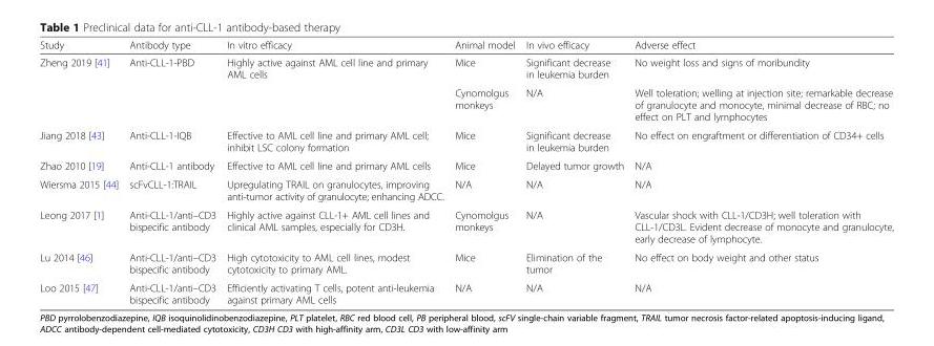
<table><thead><tr><td>Study</td><td>Antibody type</td><td>In vitro efficacy</td><td>Animal model</td><td>In vivo efficacy</td><td>Adverse effect</td></tr></thead><tbody><tr><td rowspan="2">Zheng 2019 [41]</td><td rowspan="2">Anti-CLL-1-PBD</td><td rowspan="2">Highly active against AML cell line and primary AML cells</td><td>Mice</td><td>Significant decrease in leukemia burden</td><td>No weight loss and signs of moribundity</td></tr><tr><td>Cynomolgus monkeys</td><td>N/A</td><td>Well toleration; welling at injection site; remarkable decrease of granulocyte and monocyte, minimal decrease of RBC; no effect on PLT and lymphocytes</td></tr><tr><td>Jiang 2018 [43]</td><td>Anti-CLL-1-IQB</td><td>Effective to AML cell line and primary AML cell; inhibit LSC colony formation</td><td>Mice</td><td>Significant decrease in leukemia burden</td><td>No effect on engraftment or differentiation of CD34+ cells</td></tr><tr><td>Zhao 2010 [19]</td><td>Anti-CLL-1 antibody</td><td>Effective to AML cell line and primary AML cells</td><td>Mice</td><td>Delayed tumor growth</td><td>N/A</td></tr><tr><td>Wiersma 2015 [44]</td><td>scFvCLL-1:TRAIL</td><td>Upregulating TRAIL on granulocytes, improving anti-tumor activity of granulocyte; enhancing ADCC.</td><td>N/A</td><td>N/A</td><td>N/A</td></tr><tr><td>Leong 2017 [1]</td><td>Anti-CLL-1/anti–CD3 bispecific antibody</td><td>Highly active against CLL-1+ AML cell lines and clinical AML samples, especially for CD3H.</td><td>Cynomolgus monkeys</td><td>N/A</td><td>Vascular shock with CLL-1/CD3H; well toleration with CLL-1/CD3L. Evident decrease of monocyte and granulocyte, early decrease of lymphocyte.</td></tr><tr><td>Lu 2014 [46]</td><td>Anti-CLL-1/anti–CD3 bispecific antibody</td><td>High cytotoxicity to AML cell lines, modest cytotoxicity to primary AML.</td><td>Mice</td><td>Elimination of the tumor</td><td>No effect on body weight and other status</td></tr><tr><td>Loo 2015 [47]</td><td>Anti-CLL-1/anti–CD3 bispecific antibody</td><td>Efficiently activating T cells, potent anti-leukemia against primary AML cells</td><td>N/A</td><td>N/A</td><td>N/A</td></tr></tbody></table>